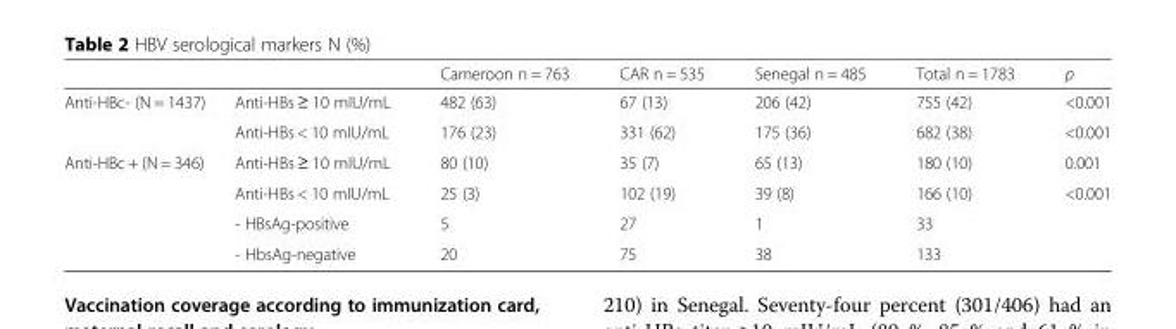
<table><thead><tr><td></td><td></td><td>Cameroon n = 763</td><td>CAR n = 535</td><td>Senegal n = 485</td><td>Total n = 1783</td><td>p</td></tr></thead><tbody><tr><td rowspan="2">Anti-HBc- (N = 1437)</td><td>Anti-HBs ≥ 10 mIU/mL</td><td>482 (63)</td><td>67 (13)</td><td>206 (42)</td><td>755 (42)</td><td>&lt;0.001</td></tr><tr><td>Anti-HBs &lt; 10 mIU/mL</td><td>176 (23)</td><td>331 (62)</td><td>175 (36)</td><td>682 (38)</td><td>&lt;0.001</td></tr><tr><td rowspan="4">Anti-HBc + (N = 346)</td><td>Anti-HBs ≥ 10 mIU/mL</td><td>80 (10)</td><td>35 (7)</td><td>65 (13)</td><td>180 (10)</td><td>0.001</td></tr><tr><td>Anti-HBs &lt; 10 mIU/mL</td><td>25 (3)</td><td>102 (19)</td><td>39 (8)</td><td>166 (10)</td><td>&lt;0.001</td></tr><tr><td>- HBsAg-positive</td><td>5</td><td>27</td><td>1</td><td>33</td><td></td></tr><tr><td>- HbsAg-negative</td><td>20</td><td>75</td><td>38</td><td>133</td><td></td></tr></tbody></table>